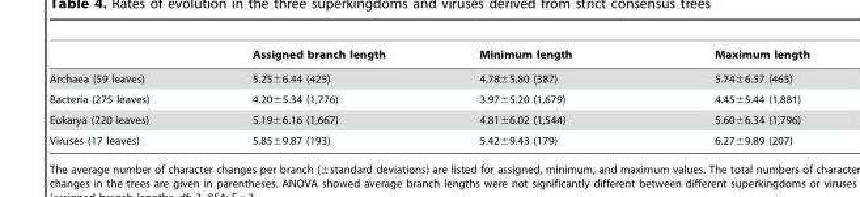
<table><thead><tr><td></td><td>Assigned branch length</td><td>Minimum length</td><td>Maximum length</td></tr></thead><tbody><tr><td>Archaea (59 leaves)</td><td>5.25±6.44 (425)</td><td>4.78±5.80 (387)</td><td>5.74±6.57 (465)</td></tr><tr><td>Bacteria (275 leaves)</td><td>4.20±5.34 (1,776)</td><td>3.97±5.20 (1,679)</td><td>4.45±5.44 (1,881)</td></tr><tr><td>Eukarya (220 leaves)</td><td>5.19±6.16 (1,667)</td><td>4.81±6.02 (1,544)</td><td>5.60±6.34 (1,796)</td></tr><tr><td>Viruses (17 leaves)</td><td>5.85±9.87 (193)</td><td>5.42±9.43 (179)</td><td>6.27±9.89 (207)</td></tr></tbody></table>